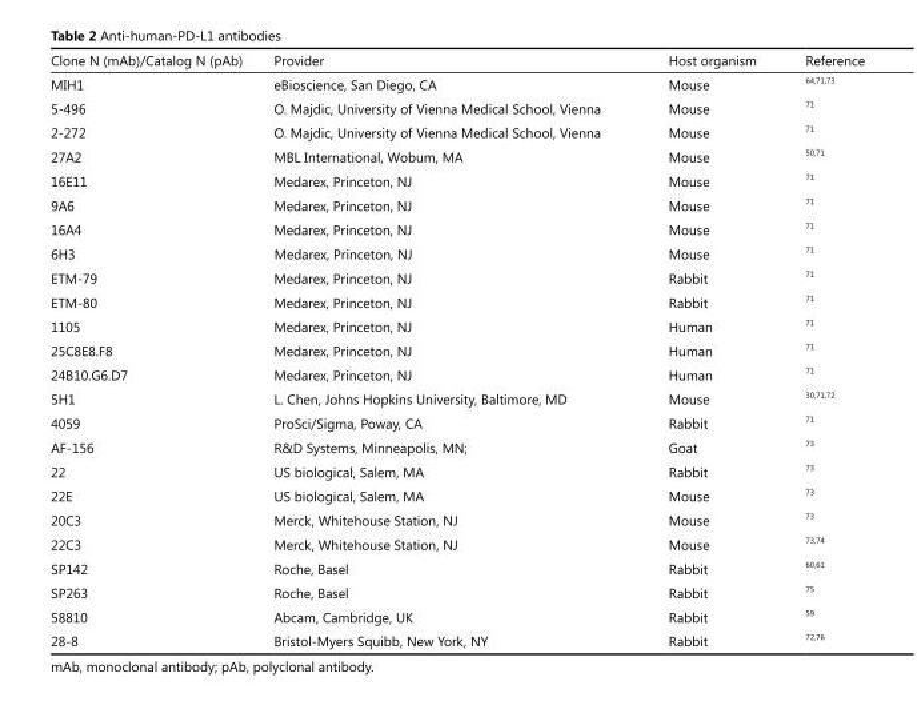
<table><thead><tr><td>Clone N (mAb)/Catalog N (pAb)</td><td>Provider</td><td>Host organism</td><td>Reference</td></tr></thead><tbody><tr><td>MIH1</td><td>eBioscience, San Diego, CA</td><td>Mouse</td><td><sup>64,71,73</sup></td></tr><tr><td>5-496</td><td>O. Majdic, University of Vienna Medical School, Vienna</td><td>Mouse</td><td><sup>71</sup></td></tr><tr><td>2-272</td><td>O. Majdic, University of Vienna Medical School, Vienna</td><td>Mouse</td><td><sup>71</sup></td></tr><tr><td>27A2</td><td>MBL International, Wobum, MA</td><td>Mouse</td><td><sup>50,71</sup></td></tr><tr><td>16E11</td><td>Medarex, Princeton, NJ</td><td>Mouse</td><td><sup>71</sup></td></tr><tr><td>9A6</td><td>Medarex, Princeton, NJ</td><td>Mouse</td><td><sup>71</sup></td></tr><tr><td>16A4</td><td>Medarex, Princeton, NJ</td><td>Mouse</td><td><sup>71</sup></td></tr><tr><td>6H3</td><td>Medarex, Princeton, NJ</td><td>Mouse</td><td><sup>71</sup></td></tr><tr><td>ETM-79</td><td>Medarex, Princeton, NJ</td><td>Rabbit</td><td><sup>71</sup></td></tr><tr><td>ETM-80</td><td>Medarex, Princeton, NJ</td><td>Rabbit</td><td><sup>71</sup></td></tr><tr><td>1105</td><td>Medarex, Princeton, NJ</td><td>Human</td><td><sup>71</sup></td></tr><tr><td>25C8E8.F8</td><td>Medarex, Princeton, NJ</td><td>Human</td><td><sup>71</sup></td></tr><tr><td>24B10.G6.D7</td><td>Medarex, Princeton, NJ</td><td>Human</td><td><sup>71</sup></td></tr><tr><td>5H1</td><td>L. Chen, Johns Hopkins University, Baltimore, MD</td><td>Mouse</td><td><sup>30,71,72</sup></td></tr><tr><td>4059</td><td>ProSci/Sigma, Poway, CA</td><td>Rabbit</td><td><sup>71</sup></td></tr><tr><td>AF-156</td><td>R&amp;D Systems, Minneapolis, MN;</td><td>Goat</td><td><sup>73</sup></td></tr><tr><td>22</td><td>US biological, Salem, MA</td><td>Rabbit</td><td><sup>73</sup></td></tr><tr><td>22E</td><td>US biological, Salem, MA</td><td>Mouse</td><td><sup>73</sup></td></tr><tr><td>20C3</td><td>Merck, Whitehouse Station, NJ</td><td>Mouse</td><td><sup>73</sup></td></tr><tr><td>22C3</td><td>Merck, Whitehouse Station, NJ</td><td>Mouse</td><td><sup>73,74</sup></td></tr><tr><td>SP142</td><td>Roche, Basel</td><td>Rabbit</td><td><sup>60,61</sup></td></tr><tr><td>SP263</td><td>Roche, Basel</td><td>Rabbit</td><td><sup>75</sup></td></tr><tr><td>58810</td><td>Abcam, Cambridge, UK</td><td>Rabbit</td><td><sup>59</sup></td></tr><tr><td>28-8</td><td>Bristol-Myers Squibb, New York, NY</td><td>Rabbit</td><td><sup>72,76</sup></td></tr></tbody></table>